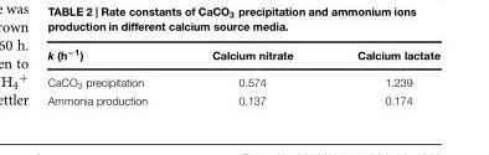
<table><thead><tr><td>k (h<sup>−1</sup>)</td><td>Calcium nitrate</td><td>Calcium lactate</td></tr></thead><tbody><tr><td>CaCO<sub>3</sub> precipitation</td><td>0.574</td><td>1.239</td></tr><tr><td>Ammonia production</td><td>0.137</td><td>0.174</td></tr></tbody></table>